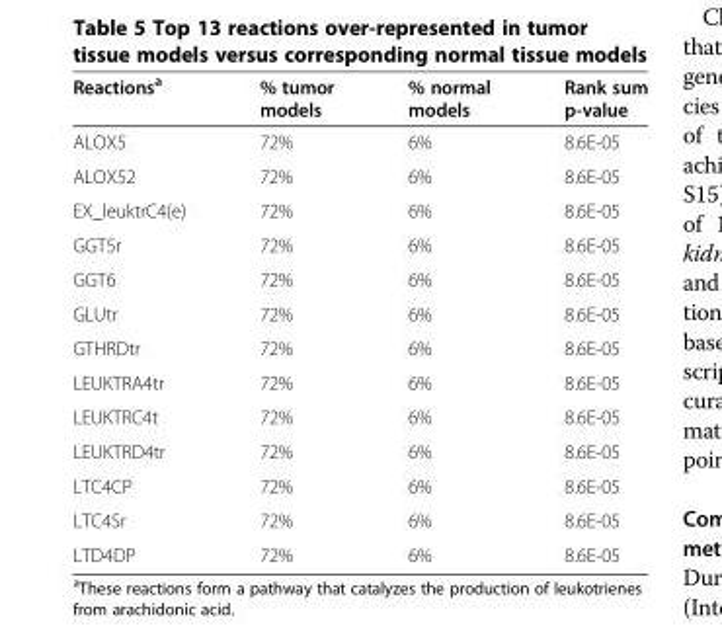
<table><thead><tr><td>Reactions<sup>a</sup></td><td>% tumor models</td><td>% normal models</td><td>Rank sum p-value</td></tr></thead><tbody><tr><td>ALOX5</td><td>72%</td><td>6%</td><td>8.6E-05</td></tr><tr><td>ALOX52</td><td>72%</td><td>6%</td><td>8.6E-05</td></tr><tr><td>EX_leuktrC4(e)</td><td>72%</td><td>6%</td><td>8.6E-05</td></tr><tr><td>GGT5r</td><td>72%</td><td>6%</td><td>8.6E-05</td></tr><tr><td>GGT6</td><td>72%</td><td>6%</td><td>8.6E-05</td></tr><tr><td>GLUtr</td><td>72%</td><td>6%</td><td>8.6E-05</td></tr><tr><td>GTHRDtr</td><td>72%</td><td>6%</td><td>8.6E-05</td></tr><tr><td>LEUKTRA4tr</td><td>72%</td><td>6%</td><td>8.6E-05</td></tr><tr><td>LEUKTRC4t</td><td>72%</td><td>6%</td><td>8.6E-05</td></tr><tr><td>LEUKTRD4tr</td><td>72%</td><td>6%</td><td>8.6E-05</td></tr><tr><td>LTC4CP</td><td>72%</td><td>6%</td><td>8.6E-05</td></tr><tr><td>LTC4Sr</td><td>72%</td><td>6%</td><td>8.6E-05</td></tr><tr><td>LTD4DP</td><td>72%</td><td>6%</td><td>8.6E-05</td></tr></tbody></table>